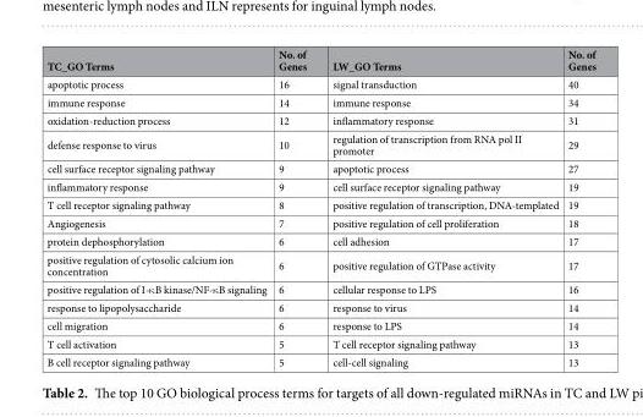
<table><thead><tr><td>TC_GO Terms</td><td>No. of Genes</td><td>LW_GO Terms</td><td>No. of Genes</td></tr></thead><tbody><tr><td>apoptotic process</td><td>16</td><td>signal transduction</td><td>40</td></tr><tr><td>immune response</td><td>14</td><td>immune response</td><td>34</td></tr><tr><td>oxidation-reduction process</td><td>12</td><td>inflammatory response</td><td>31</td></tr><tr><td>defense response to virus</td><td>10</td><td>regulation of transcription from RNA pol II promoter</td><td>29</td></tr><tr><td>cell surface receptor signaling pathway</td><td>9</td><td>apoptotic process</td><td>27</td></tr><tr><td>inflammatory response</td><td>9</td><td>cell surface receptor signaling pathway</td><td>19</td></tr><tr><td>T cell receptor signaling pathway</td><td>8</td><td>positive regulation of transcription, DNA-templated</td><td>19</td></tr><tr><td>Angiogenesis</td><td>7</td><td>positive regulation of cell proliferation</td><td>18</td></tr><tr><td>protein dephosphorylation</td><td>6</td><td>cell adhesion</td><td>17</td></tr><tr><td>positive regulation of cytosolic calcium ion concentration</td><td>6</td><td>positive regulation of GTPase activity</td><td>17</td></tr><tr><td>positive regulation of I-κB kinase/NF-κB signaling</td><td>6</td><td>cellular response to LPS</td><td>16</td></tr><tr><td>response to lipopolysaccharide</td><td>6</td><td>response to virus</td><td>14</td></tr><tr><td>cell migration</td><td>6</td><td>response to LPS</td><td>14</td></tr><tr><td>T cell activation</td><td>5</td><td>T cell receptor signaling pathway</td><td>13</td></tr><tr><td>B cell receptor signaling pathway</td><td>5</td><td>cell-cell signaling</td><td>13</td></tr></tbody></table>